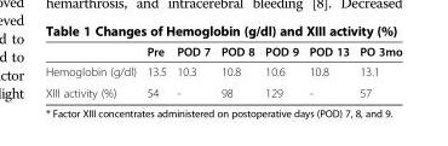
<table><thead><tr><td></td><td>Pre</td><td>POD 7</td><td>POD 8</td><td>POD 9</td><td>POD 13</td><td>PO 3mo</td></tr></thead><tbody><tr><td>Hemoglobin (g/dl)</td><td>13.5</td><td>10.3</td><td>10.8</td><td>10.6</td><td>10.8</td><td>13.1</td></tr><tr><td>XIII activity (%)</td><td>54</td><td>-</td><td>98</td><td>129</td><td>-</td><td>57</td></tr></tbody></table>